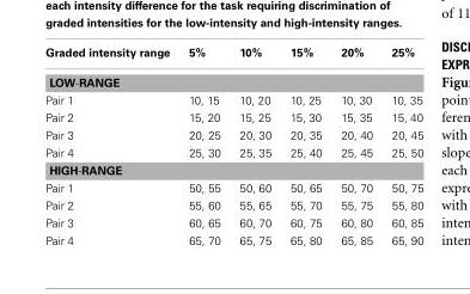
<table><thead><tr><td>Graded intensity range</td><td>5%</td><td>10%</td><td>15%</td><td>20%</td><td>25%</td></tr></thead><tbody><tr><td colspan="6">LOW-RANGE</td></tr><tr><td>Pair 1</td><td>10, 15</td><td>10, 20</td><td>10, 25</td><td>10, 30</td><td>10, 35</td></tr><tr><td>Pair 2</td><td>15, 20</td><td>15, 25</td><td>15, 30</td><td>15, 35</td><td>15, 40</td></tr><tr><td>Pair 3</td><td>20, 25</td><td>20, 30</td><td>20, 35</td><td>20, 40</td><td>20, 45</td></tr><tr><td>Pair 4</td><td>25, 30</td><td>25, 35</td><td>25, 40</td><td>25, 45</td><td>25, 50</td></tr><tr><td colspan="6">HIGH-RANGE</td></tr><tr><td>Pair 1</td><td>50, 55</td><td>50, 60</td><td>50, 65</td><td>50, 70</td><td>50, 75</td></tr><tr><td>Pair 2</td><td>55, 60</td><td>55, 65</td><td>55, 70</td><td>55, 75</td><td>55, 80</td></tr><tr><td>Pair 3</td><td>60, 65</td><td>60, 70</td><td>60, 75</td><td>60, 80</td><td>60, 85</td></tr><tr><td>Pair 4</td><td>65, 70</td><td>65, 75</td><td>65, 80</td><td>65, 85</td><td>65, 90</td></tr></tbody></table>